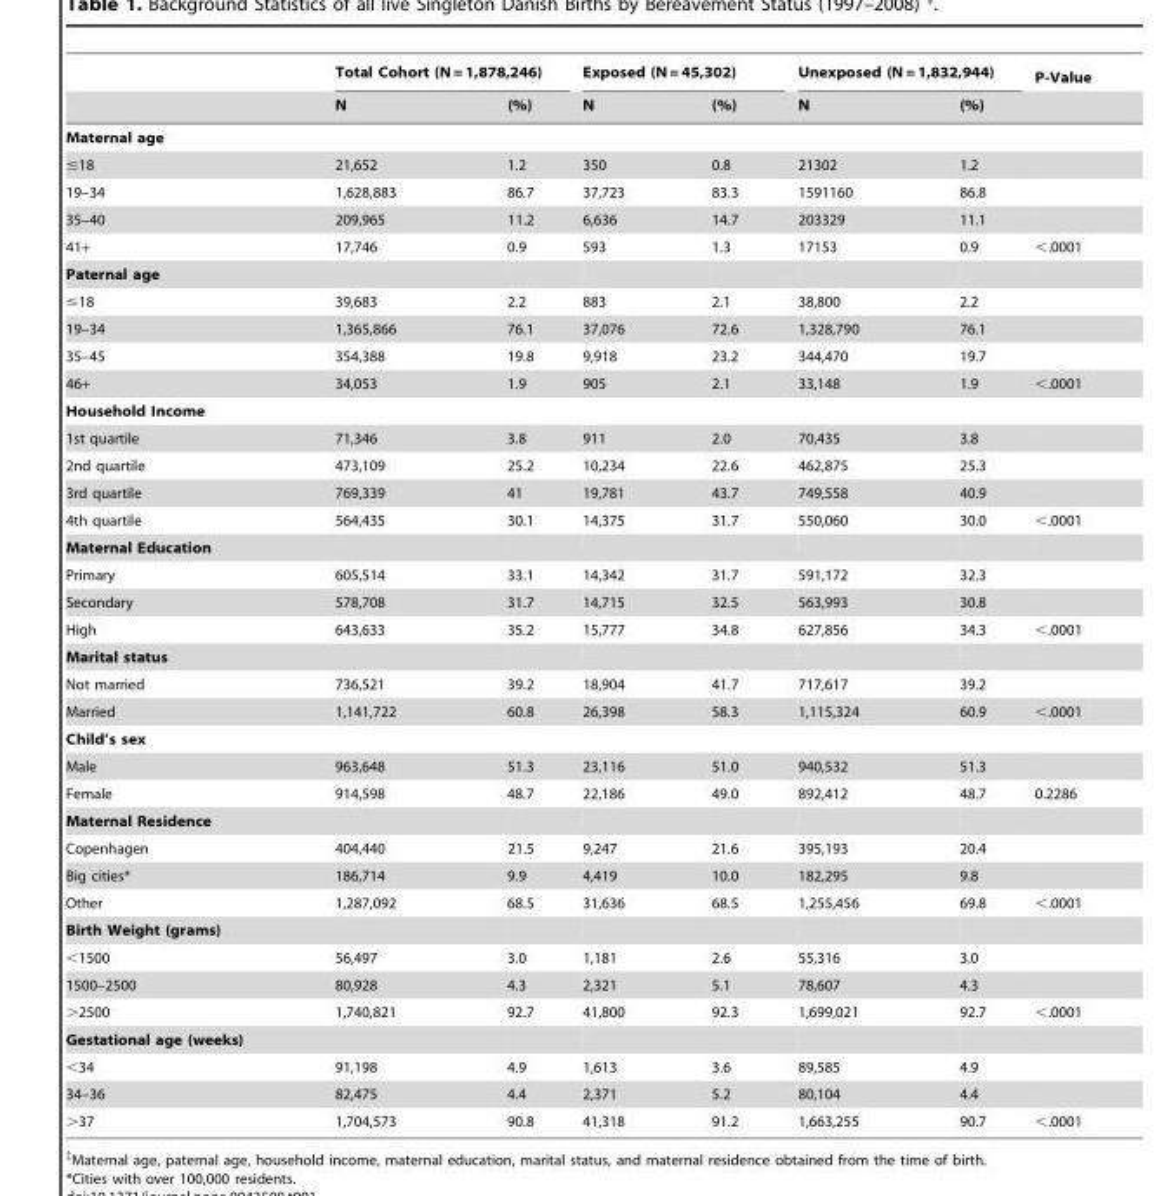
<table><thead><tr><td rowspan="2"></td><td colspan="2">Total Cohort (N = 1,878,246)</td><td colspan="2">Exposed (N = 45,302)</td><td colspan="2">Unexposed (N = 1,832,944)</td><td rowspan="2">P-Value</td></tr><tr><td>N</td><td>(%)</td><td>N</td><td>(%)</td><td>N</td><td>(%)</td></tr></thead><tbody><tr><td colspan="8">Maternal age</td></tr><tr><td>≤18</td><td>21,652</td><td>1.2</td><td>350</td><td>0.8</td><td>21302</td><td>1.2</td><td></td></tr><tr><td>19–34</td><td>1,628,883</td><td>86.7</td><td>37,723</td><td>83.3</td><td>1591160</td><td>86.8</td><td></td></tr><tr><td>35–40</td><td>209,965</td><td>11.2</td><td>6,636</td><td>14.7</td><td>203329</td><td>11.1</td><td></td></tr><tr><td>41+</td><td>17,746</td><td>0.9</td><td>593</td><td>1.3</td><td>17153</td><td>0.9</td><td>&lt;.0001</td></tr><tr><td colspan="8">Paternal age</td></tr><tr><td>≤18</td><td>39,683</td><td>2.2</td><td>883</td><td>2.1</td><td>38,800</td><td>2.2</td><td></td></tr><tr><td>19–34</td><td>1,365,866</td><td>76.1</td><td>37,076</td><td>72.6</td><td>1,328,790</td><td>76.1</td><td></td></tr><tr><td>35–45</td><td>354,388</td><td>19.8</td><td>9,918</td><td>23.2</td><td>344,470</td><td>19.7</td><td></td></tr><tr><td>46+</td><td>34,053</td><td>1.9</td><td>905</td><td>2.1</td><td>33,148</td><td>1.9</td><td>&lt;.0001</td></tr><tr><td colspan="8">Household Income</td></tr><tr><td>1st quartile</td><td>71,346</td><td>3.8</td><td>911</td><td>2.0</td><td>70,435</td><td>3.8</td><td></td></tr><tr><td>2nd quartile</td><td>473,109</td><td>25.2</td><td>10,234</td><td>22.6</td><td>462,875</td><td>25.3</td><td></td></tr><tr><td>3rd quartile</td><td>769,339</td><td>41</td><td>19,781</td><td>43.7</td><td>749,558</td><td>40.9</td><td></td></tr><tr><td>4th quartile</td><td>564,435</td><td>30.1</td><td>14,375</td><td>31.7</td><td>550,060</td><td>30.0</td><td>&lt;.0001</td></tr><tr><td colspan="8">Maternal Education</td></tr><tr><td>Primary</td><td>605,514</td><td>33.1</td><td>14,342</td><td>31.7</td><td>591,172</td><td>32.3</td><td></td></tr><tr><td>Secondary</td><td>578,708</td><td>31.7</td><td>14,715</td><td>32.5</td><td>563,993</td><td>30.8</td><td></td></tr><tr><td>High</td><td>643,633</td><td>35.2</td><td>15,777</td><td>34.8</td><td>627,856</td><td>34.3</td><td>&lt;.0001</td></tr><tr><td colspan="8">Marital status</td></tr><tr><td>Not married</td><td>736,521</td><td>39.2</td><td>18,904</td><td>41.7</td><td>717,617</td><td>39.2</td><td></td></tr><tr><td>Married</td><td>1,141,722</td><td>60.8</td><td>26,398</td><td>58.3</td><td>1,115,324</td><td>60.9</td><td>&lt;.0001</td></tr><tr><td colspan="8">Child’s sex</td></tr><tr><td>Male</td><td>963,648</td><td>51.3</td><td>23,116</td><td>51.0</td><td>940,532</td><td>51.3</td><td></td></tr><tr><td>Female</td><td>914,598</td><td>48.7</td><td>22,186</td><td>49.0</td><td>892,412</td><td>48.7</td><td>0.2286</td></tr><tr><td colspan="8">Maternal Residence</td></tr><tr><td>Copenhagen</td><td>404,440</td><td>21.5</td><td>9,247</td><td>21.6</td><td>395,193</td><td>20.4</td><td></td></tr><tr><td>Big cities*</td><td>186,714</td><td>9.9</td><td>4,419</td><td>10.0</td><td>182,295</td><td>9.8</td><td></td></tr><tr><td>Other</td><td>1,287,092</td><td>68.5</td><td>31,636</td><td>68.5</td><td>1,255,456</td><td>69.8</td><td>&lt;.0001</td></tr><tr><td colspan="8">Birth Weight (grams)</td></tr><tr><td>&lt;1500</td><td>56,497</td><td>3.0</td><td>1,181</td><td>2.6</td><td>55,316</td><td>3.0</td><td></td></tr><tr><td>1500–2500</td><td>80,928</td><td>4.3</td><td>2,321</td><td>5.1</td><td>78,607</td><td>4.3</td><td></td></tr><tr><td>&gt;2500</td><td>1,740,821</td><td>92.7</td><td>41,800</td><td>92.3</td><td>1,699,021</td><td>92.7</td><td>&lt;.0001</td></tr><tr><td colspan="8">Gestational age (weeks)</td></tr><tr><td>&lt;34</td><td>91,198</td><td>4.9</td><td>1,613</td><td>3.6</td><td>89,585</td><td>4.9</td><td></td></tr><tr><td>34–36</td><td>82,475</td><td>4.4</td><td>2,371</td><td>5.2</td><td>80,104</td><td>4.4</td><td></td></tr><tr><td>&gt;37</td><td>1,704,573</td><td>90.8</td><td>41,318</td><td>91.2</td><td>1,663,255</td><td>90.7</td><td>&lt;.0001</td></tr></tbody></table>